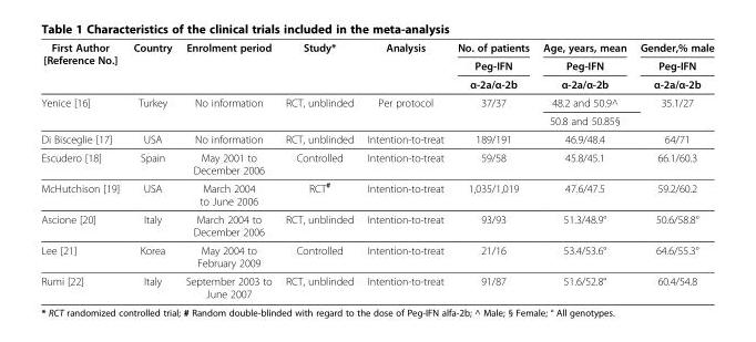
<table><thead><tr><td rowspan="3">First Author [Reference No.]</td><td rowspan="3">Country</td><td rowspan="3">Enrolment period</td><td rowspan="3">Study*</td><td rowspan="3">Analysis</td><td rowspan="3">No. of patients Peg-IFN α-2a/α-2b</td><td rowspan="3">Age, years, mean Peg-IFN α-2a/α-2b</td><td rowspan="3">Gender,% male Peg-IFN α-2a/α-2b</td></tr><tr></tr><tr></tr></thead><tbody><tr><td rowspan="2">Yenice [16]</td><td rowspan="2">Turkey</td><td rowspan="2">No information</td><td rowspan="2">RCT, unblinded</td><td rowspan="2">Per protocol</td><td rowspan="2">37/37</td><td>48.2 and 50.9^</td><td rowspan="2">35.1/27</td></tr><tr><td>50.8 and 50.85§</td></tr><tr><td>Di Bisceglie [17]</td><td>USA</td><td>No information</td><td>RCT, unblinded</td><td>Intention-to-treat</td><td>189/191</td><td>46.9/48.4</td><td>64/71</td></tr><tr><td>Escudero [18]</td><td>Spain</td><td>May 2001 to December 2006</td><td>Controlled</td><td>Intention-to-treat</td><td>59/58</td><td>45.8/45.1</td><td>66.1/60.3</td></tr><tr><td>McHutchison [19]</td><td>USA</td><td>March 2004 to June 2006</td><td>RCT<sup>#</sup></td><td>Intention-to-treat</td><td>1,035/1,019</td><td>47.6/47.5</td><td>59.2/60.2</td></tr><tr><td>Ascione [20]</td><td>Italy</td><td>March 2004 to December 2006</td><td>RCT, unblinded</td><td>Intention-to-treat</td><td>93/93</td><td>51.3/48.9°</td><td>50.6/58.8°</td></tr><tr><td>Lee [21]</td><td>Korea</td><td>May 2004 to February 2009</td><td>Controlled</td><td>Intention-to-treat</td><td>21/16</td><td>53.4/53.6°</td><td>64.6/55.3°</td></tr><tr><td>Rumi [22]</td><td>Italy</td><td>September 2003 to June 2007</td><td>RCT, unblinded</td><td>Intention-to-treat</td><td>91/87</td><td>51.6/52.8°</td><td>60.4/54.8</td></tr></tbody></table>